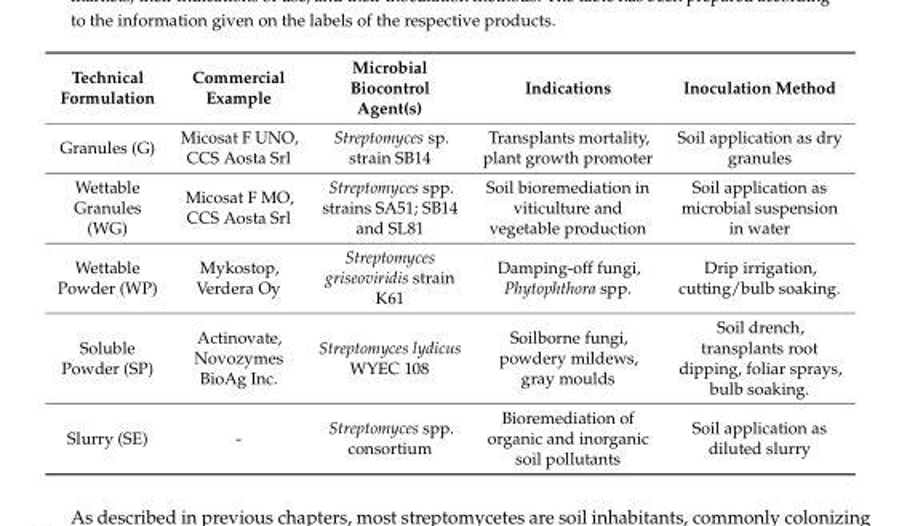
<table><thead><tr><td>Technical Formulation</td><td>Commercial Example</td><td>Microbial Biocontrol Agent(s)</td><td>Indications</td><td>Inoculation Method</td></tr></thead><tbody><tr><td>Granules (G)</td><td>Micosat F UNO, CCS Aosta Srl</td><td>Streptomyces sp. strain SB14</td><td>Transplants mortality, plant growth promoter</td><td>Soil application as dry granules</td></tr><tr><td>Wettable Granules (WG)</td><td>Micosat F MO, CCS Aosta Srl</td><td>Streptomyces spp. strains SA51; SB14 and SL81</td><td>Soil bioremediation in viticulture and vegetable production</td><td>Soil application as microbial suspension in water</td></tr><tr><td>Wettable Powder (WP)</td><td>Mykostop, Verdera Oy</td><td>Streptomyces griseoviridis strain K61</td><td>Damping-off fungi, Phytophthora spp.</td><td>Drip irrigation, cutting/bulb soaking.</td></tr><tr><td>Soluble Powder (SP)</td><td>Actinovate, Novozymes BioAg Inc.</td><td>Streptomyces lydicus WYEC 108</td><td>Soilborne fungi, powdery mildews, gray moulds</td><td>Soil drench, transplants root dipping, foliar sprays, bulb soaking.</td></tr><tr><td>Slurry (SE)</td><td>-</td><td>Streptomyces spp. consortium</td><td>Bioremediation of organic and inorganic soil pollutants</td><td>Soil application as diluted slurry</td></tr></tbody></table>